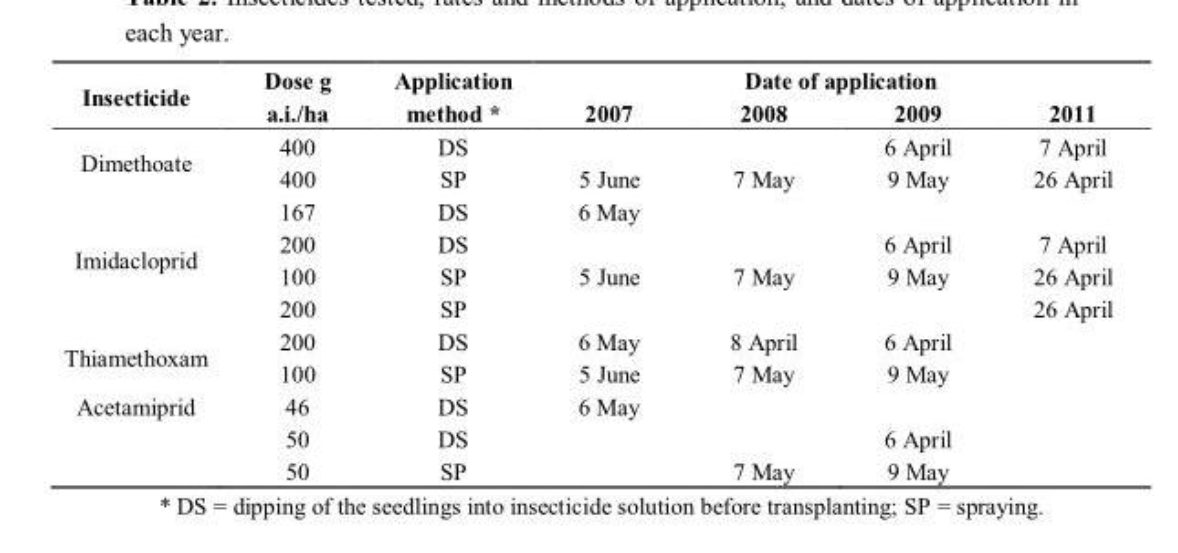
<table><thead><tr><td rowspan="2">Insecticide</td><td rowspan="2">Dose g a.i./ha</td><td rowspan="2">Application method *</td><td colspan="4">Date of application</td></tr><tr><td>2007</td><td>2008</td><td>2009</td><td>2011</td></tr></thead><tbody><tr><td rowspan="2">Dimethoate</td><td>400</td><td>DS</td><td></td><td></td><td>6 April</td><td>7 April</td></tr><tr><td>400</td><td>SP</td><td>5 June</td><td>7 May</td><td>9 May</td><td>26 April</td></tr><tr><td rowspan="4">Imidacloprid</td><td>167</td><td>DS</td><td>6 May</td><td></td><td></td><td></td></tr><tr><td>200</td><td>DS</td><td></td><td></td><td>6 April</td><td>7 April</td></tr><tr><td>100</td><td>SP</td><td>5 June</td><td>7 May</td><td>9 May</td><td>26 April</td></tr><tr><td>200</td><td>SP</td><td></td><td></td><td></td><td>26 April</td></tr><tr><td rowspan="2">Thiamethoxam</td><td>200</td><td>DS</td><td>6 May</td><td>8 April</td><td>6 April</td><td></td></tr><tr><td>100</td><td>SP</td><td>5 June</td><td>7 May</td><td>9 May</td><td></td></tr><tr><td rowspan="3">Acetamiprid</td><td>46</td><td>DS</td><td>6 May</td><td></td><td></td><td></td></tr><tr><td>50</td><td>DS</td><td></td><td></td><td>6 April</td><td></td></tr><tr><td>50</td><td>SP</td><td></td><td>7 May</td><td>9 May</td><td></td></tr></tbody></table>